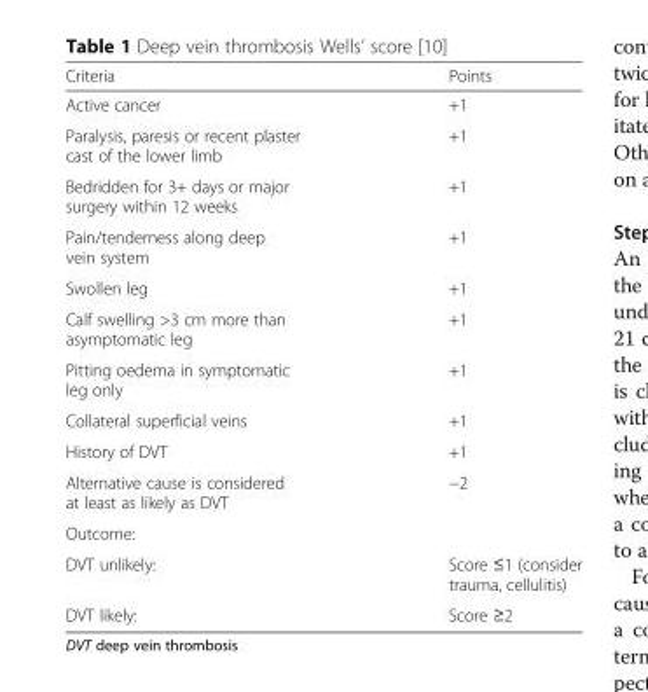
<table><thead><tr><td>Criteria</td><td>Points</td></tr></thead><tbody><tr><td>Active cancer</td><td>+1</td></tr><tr><td>Paralysis, paresis or recent plaster cast of the lower limb</td><td>+1</td></tr><tr><td>Bedridden for 3+ days or major surgery within 12 weeks</td><td>+1</td></tr><tr><td>Pain/tenderness along deep vein system</td><td>+1</td></tr><tr><td>Swollen leg</td><td>+1</td></tr><tr><td>Calf swelling &gt;3 cm more than asymptomatic leg</td><td>+1</td></tr><tr><td>Pitting oedema in symptomatic leg only</td><td>+1</td></tr><tr><td>Collateral superficial veins</td><td>+1</td></tr><tr><td>History of DVT</td><td>+1</td></tr><tr><td>Alternative cause is considered at least as likely as DVT</td><td>−2</td></tr><tr><td colspan="2">Outcome:</td></tr><tr><td>DVT unlikely:</td><td>Score ≤1 (consider trauma, cellulitis)</td></tr><tr><td>DVT likely:</td><td>Score ≥2</td></tr></tbody></table>